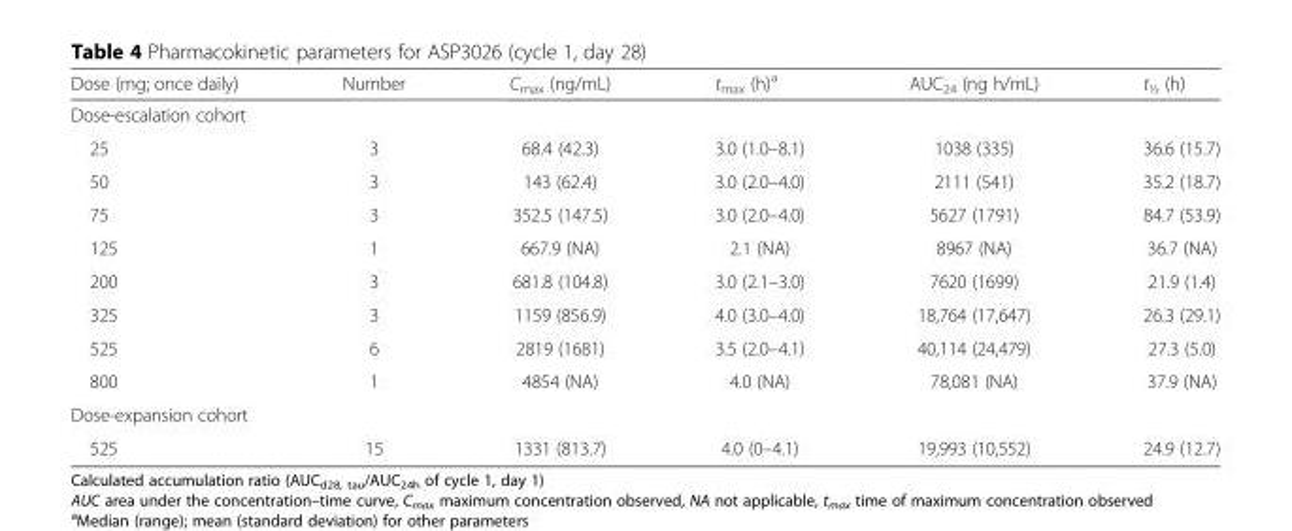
<table><thead><tr><td>Dose (mg; once daily)</td><td>Number</td><td>C<sub>max</sub> (ng/mL)</td><td>t<sub>max</sub> (h)<sup>a</sup></td><td>AUC<sub>24</sub> (ng h/mL)</td><td>t<sub>½</sub> (h)</td></tr></thead><tbody><tr><td colspan="6">Dose-escalation cohort</td></tr><tr><td>25</td><td>3</td><td>68.4 (42.3)</td><td>3.0 (1.0–8.1)</td><td>1038 (335)</td><td>36.6 (15.7)</td></tr><tr><td>50</td><td>3</td><td>143 (62.4)</td><td>3.0 (2.0–4.0)</td><td>2111 (541)</td><td>35.2 (18.7)</td></tr><tr><td>75</td><td>3</td><td>352.5 (147.5)</td><td>3.0 (2.0–4.0)</td><td>5627 (1791)</td><td>84.7 (53.9)</td></tr><tr><td>125</td><td>1</td><td>667.9 (NA)</td><td>2.1 (NA)</td><td>8967 (NA)</td><td>36.7 (NA)</td></tr><tr><td>200</td><td>3</td><td>681.8 (104.8)</td><td>3.0 (2.1–3.0)</td><td>7620 (1699)</td><td>21.9 (1.4)</td></tr><tr><td>325</td><td>3</td><td>1159 (856.9)</td><td>4.0 (3.0–4.0)</td><td>18,764 (17,647)</td><td>26.3 (29.1)</td></tr><tr><td>525</td><td>6</td><td>2819 (1681)</td><td>3.5 (2.0–4.1)</td><td>40,114 (24,479)</td><td>27.3 (5.0)</td></tr><tr><td>800</td><td>1</td><td>4854 (NA)</td><td>4.0 (NA)</td><td>78,081 (NA)</td><td>37.9 (NA)</td></tr><tr><td colspan="6">Dose-expansion cohort</td></tr><tr><td>525</td><td>15</td><td>1331 (813.7)</td><td>4.0 (0–4.1)</td><td>19,993 (10,552)</td><td>24.9 (12.7)</td></tr></tbody></table>